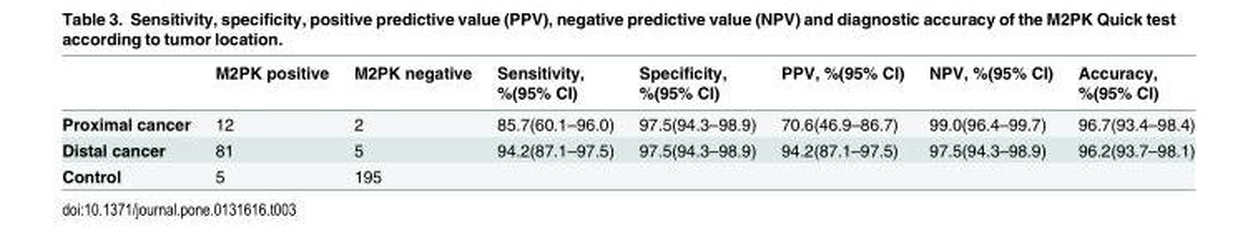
<table><thead><tr><td></td><td>M2PK positive</td><td>M2PK negative</td><td>Sensitivity, %(95% CI)</td><td>Specificity, %(95% CI)</td><td>PPV, %(95% CI)</td><td>NPV, %(95% CI)</td><td>Accuracy, %(95% CI)</td></tr></thead><tbody><tr><td>Proximal cancer</td><td>12</td><td>2</td><td>85.7(60.1–96.0)</td><td>97.5(94.3–98.9)</td><td>70.6(46.9–86.7)</td><td>99.0(96.4–99.7)</td><td>96.7(93.4–98.4)</td></tr><tr><td>Distal cancer</td><td>81</td><td>5</td><td>94.2(87.1–97.5)</td><td>97.5(94.3–98.9)</td><td>94.2(87.1–97.5)</td><td>97.5(94.3–98.9)</td><td>96.2(93.7–98.1)</td></tr><tr><td>Control</td><td>5</td><td>195</td><td></td><td></td><td></td><td></td><td></td></tr></tbody></table>